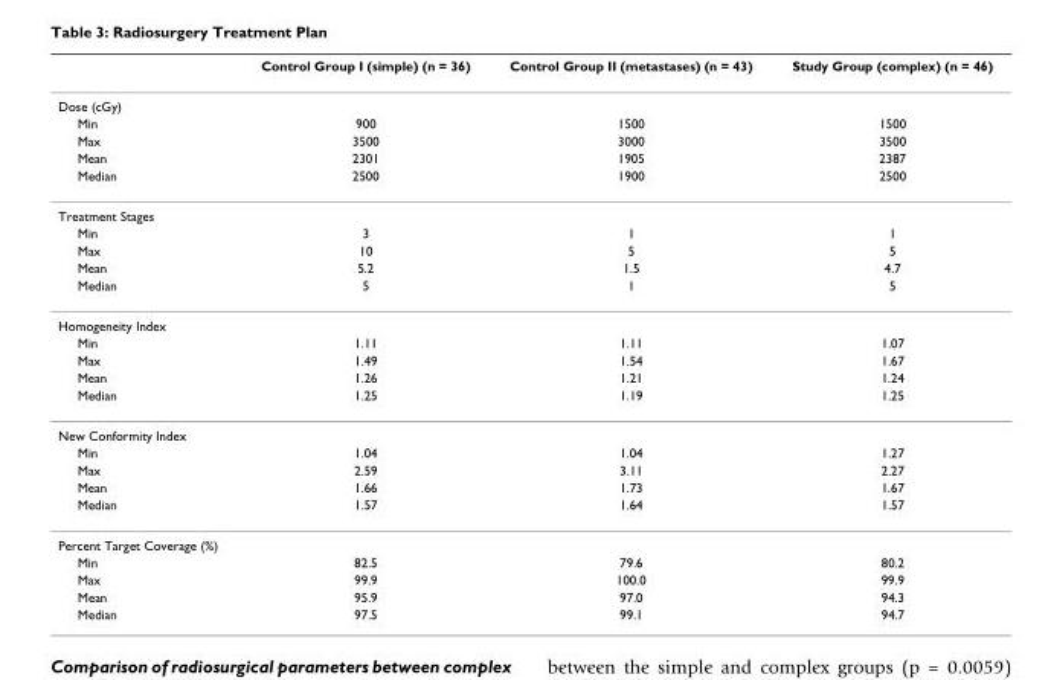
<table><thead><tr><td></td><td>Control Group I (simple) (n = 36)</td><td>Control Group II (metastases) (n = 43)</td><td>Study Group (complex) (n = 46)</td></tr></thead><tbody><tr><td colspan="4">Dose (cGy)</td></tr><tr><td>Min</td><td>900</td><td>1500</td><td>1500</td></tr><tr><td>Max</td><td>3500</td><td>3000</td><td>3500</td></tr><tr><td>Mean</td><td>2301</td><td>1905</td><td>2387</td></tr><tr><td>Median</td><td>2500</td><td>1900</td><td>2500</td></tr><tr><td colspan="4">Treatment Stages</td></tr><tr><td>Min</td><td>3</td><td>1</td><td>1</td></tr><tr><td>Max</td><td>10</td><td>5</td><td>5</td></tr><tr><td>Mean</td><td>5.2</td><td>1.5</td><td>4.7</td></tr><tr><td>Median</td><td>5</td><td>1</td><td>5</td></tr><tr><td colspan="4">Homogeneity Index</td></tr><tr><td>Min</td><td>1.11</td><td>1.11</td><td>1.07</td></tr><tr><td>Max</td><td>1.49</td><td>1.54</td><td>1.67</td></tr><tr><td>Mean</td><td>1.26</td><td>1.21</td><td>1.24</td></tr><tr><td>Median</td><td>1.25</td><td>1.19</td><td>1.25</td></tr><tr><td colspan="4">New Conformity Index</td></tr><tr><td>Min</td><td>1.04</td><td>1.04</td><td>1.27</td></tr><tr><td>Max</td><td>2.59</td><td>3.11</td><td>2.27</td></tr><tr><td>Mean</td><td>1.66</td><td>1.73</td><td>1.67</td></tr><tr><td>Median</td><td>1.57</td><td>1.64</td><td>1.57</td></tr><tr><td colspan="4">Percent Target Coverage (%)</td></tr><tr><td>Min</td><td>82.5</td><td>79.6</td><td>80.2</td></tr><tr><td>Max</td><td>99.9</td><td>100.0</td><td>99.9</td></tr><tr><td>Mean</td><td>95.9</td><td>97.0</td><td>94.3</td></tr><tr><td>Median</td><td>97.5</td><td>99.1</td><td>94.7</td></tr></tbody></table>